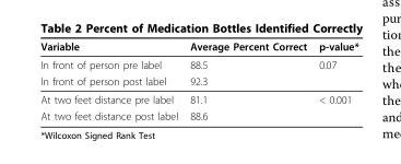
<table><thead><tr><td>Variable</td><td>Average Percent Correct</td><td>p-value*</td></tr></thead><tbody><tr><td>In front of person pre label</td><td>88.5</td><td>0.07</td></tr><tr><td>In front of person post label</td><td>92.3</td><td></td></tr><tr><td>At two feet distance pre label</td><td>81.1</td><td>&lt; 0.001</td></tr><tr><td>At two feet distance post label</td><td>88.6</td><td></td></tr></tbody></table>